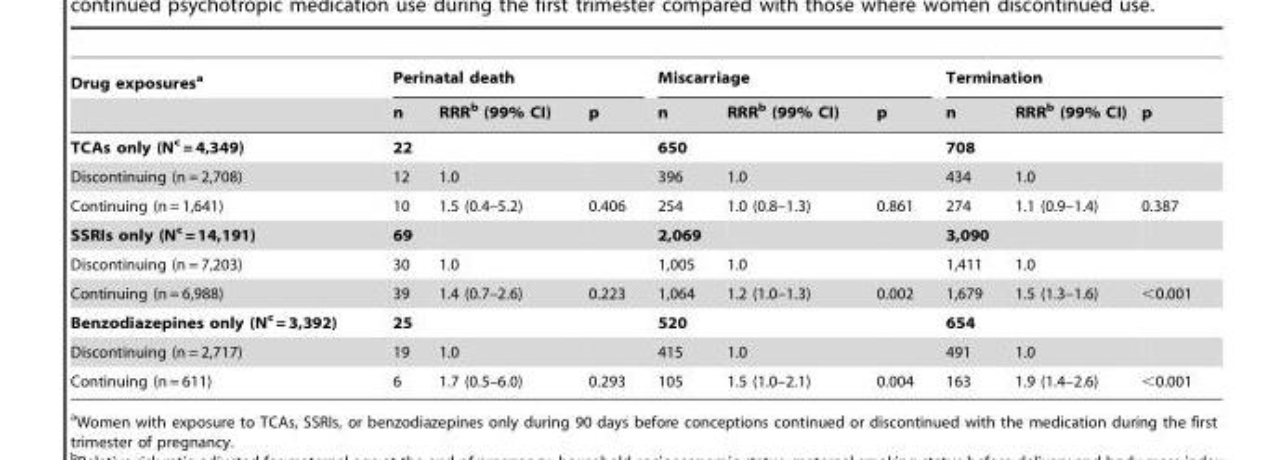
<table><thead><tr><td rowspan="2">Drug exposures<sup>a</sup></td><td colspan="3">Perinatal death</td><td colspan="3">Miscarriage</td><td colspan="3">Termination</td></tr><tr><td>n</td><td>RRR<sup>b</sup> (99% CI)</td><td>p</td><td>n</td><td>RRR<sup>b</sup> (99% CI)</td><td>p</td><td>n</td><td>RRR<sup>b</sup> (99% CI)</td><td>p</td></tr></thead><tbody><tr><td>TCAs only (Nc = 4,349)</td><td>22</td><td></td><td></td><td>650</td><td></td><td></td><td>708</td><td></td><td></td></tr><tr><td>Discontinuing (n = 2,708)</td><td>12</td><td>1.0</td><td></td><td>396</td><td>1.0</td><td></td><td>434</td><td>1.0</td><td></td></tr><tr><td>Continuing (n = 1,641)</td><td>10</td><td>1.5 (0.4–5.2)</td><td>0.406</td><td>254</td><td>1.0 (0.8–1.3)</td><td>0.861</td><td>274</td><td>1.1 (0.9–1.4)</td><td>0.387</td></tr><tr><td>SSRIs only (Nc = 14,191)</td><td>69</td><td></td><td></td><td>2,069</td><td></td><td></td><td>3,090</td><td></td><td></td></tr><tr><td>Discontinuing (n = 7,203)</td><td>30</td><td>1.0</td><td></td><td>1,005</td><td>1.0</td><td></td><td>1,411</td><td>1.0</td><td></td></tr><tr><td>Continuing (n = 6,988)</td><td>39</td><td>1.4 (0.7–2.6)</td><td>0.223</td><td>1,064</td><td>1.2 (1.0–1.3)</td><td>0.002</td><td>1,679</td><td>1.5 (1.3–1.6)</td><td>&lt;0.001</td></tr><tr><td>Benzodiazepines only (Nc = 3,392)</td><td>25</td><td></td><td></td><td>520</td><td></td><td></td><td>654</td><td></td><td></td></tr><tr><td>Discontinuing (n = 2,717)</td><td>19</td><td>1.0</td><td></td><td>415</td><td>1.0</td><td></td><td>491</td><td>1.0</td><td></td></tr><tr><td>Continuing (n = 611)</td><td>6</td><td>1.7 (0.5–6.0)</td><td>0.293</td><td>105</td><td>1.5 (1.0–2.1)</td><td>0.004</td><td>163</td><td>1.9 (1.4–2.6)</td><td>&lt;0.001</td></tr></tbody></table>